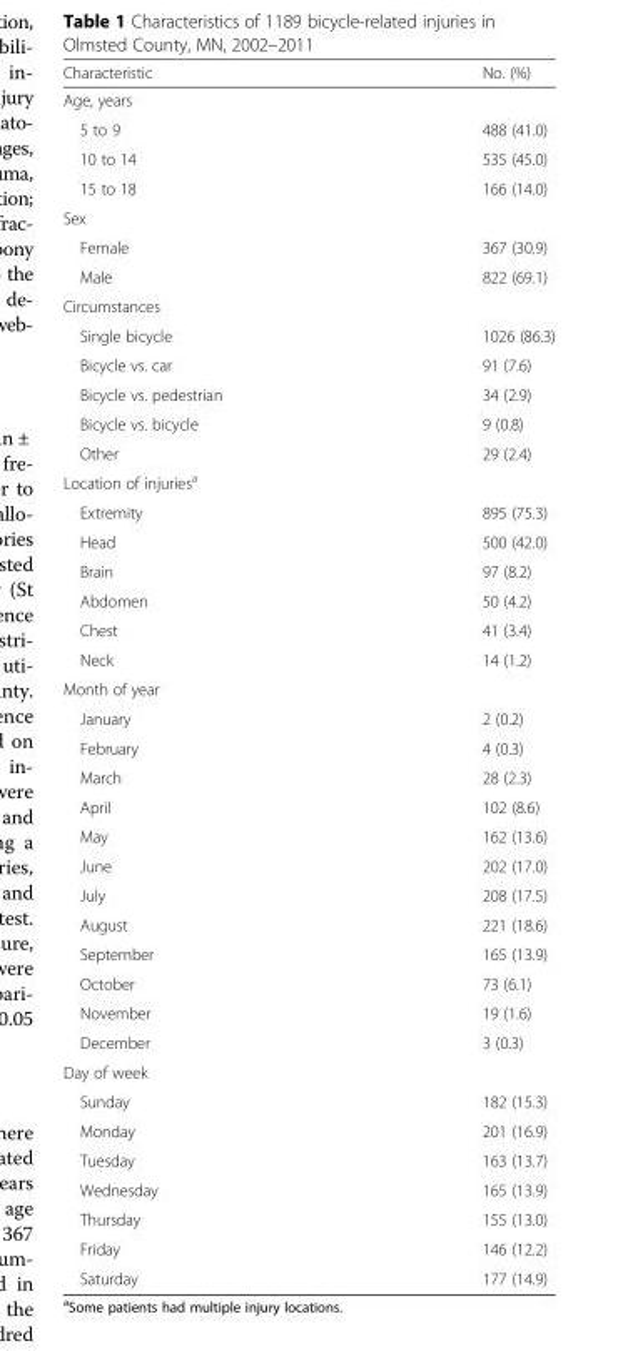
<table><thead><tr><td>Characteristic</td><td>No. (%)</td></tr></thead><tbody><tr><td colspan="2">Age, years</td></tr><tr><td>5 to 9</td><td>488 (41.0)</td></tr><tr><td>10 to 14</td><td>535 (45.0)</td></tr><tr><td>15 to 18</td><td>166 (14.0)</td></tr><tr><td colspan="2">Sex</td></tr><tr><td>Female</td><td>367 (30.9)</td></tr><tr><td>Male</td><td>822 (69.1)</td></tr><tr><td colspan="2">Circumstances</td></tr><tr><td>Single bicycle</td><td>1026 (86.3)</td></tr><tr><td>Bicycle vs. car</td><td>91 (7.6)</td></tr><tr><td>Bicycle vs. pedestrian</td><td>34 (2.9)</td></tr><tr><td>Bicycle vs. bicycle</td><td>9 (0.8)</td></tr><tr><td>Other</td><td>29 (2.4)</td></tr><tr><td colspan="2">Location of injuries<sup>a</sup></td></tr><tr><td>Extremity</td><td>895 (75.3)</td></tr><tr><td>Head</td><td>500 (42.0)</td></tr><tr><td>Brain</td><td>97 (8.2)</td></tr><tr><td>Abdomen</td><td>50 (4.2)</td></tr><tr><td>Chest</td><td>41 (3.4)</td></tr><tr><td>Neck</td><td>14 (1.2)</td></tr><tr><td colspan="2">Month of year</td></tr><tr><td>January</td><td>2 (0.2)</td></tr><tr><td>February</td><td>4 (0.3)</td></tr><tr><td>March</td><td>28 (2.3)</td></tr><tr><td>April</td><td>102 (8.6)</td></tr><tr><td>May</td><td>162 (13.6)</td></tr><tr><td>June</td><td>202 (17.0)</td></tr><tr><td>July</td><td>208 (17.5)</td></tr><tr><td>August</td><td>221 (18.6)</td></tr><tr><td>September</td><td>165 (13.9)</td></tr><tr><td>October</td><td>73 (6.1)</td></tr><tr><td>November</td><td>19 (1.6)</td></tr><tr><td>December</td><td>3 (0.3)</td></tr><tr><td colspan="2">Day of week</td></tr><tr><td>Sunday</td><td>182 (15.3)</td></tr><tr><td>Monday</td><td>201 (16.9)</td></tr><tr><td>Tuesday</td><td>163 (13.7)</td></tr><tr><td>Wednesday</td><td>165 (13.9)</td></tr><tr><td>Thursday</td><td>155 (13.0)</td></tr><tr><td>Friday</td><td>146 (12.2)</td></tr><tr><td>Saturday</td><td>177 (14.9)</td></tr></tbody></table>